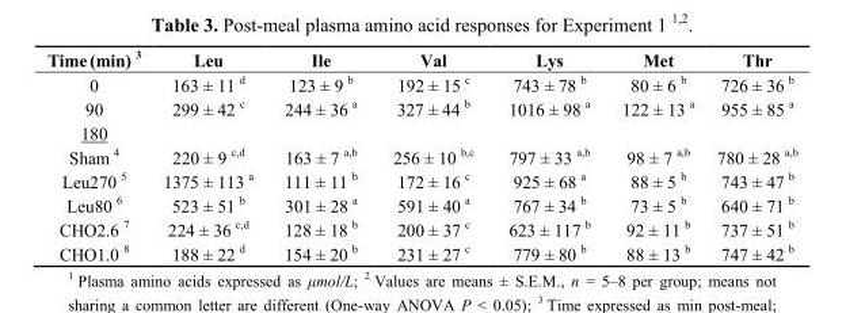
<table><thead><tr><td>Time (min) <sup>3</sup></td><td>Leu</td><td>Ile</td><td>Val</td><td>Lys</td><td>Met</td><td>Thr</td></tr></thead><tbody><tr><td>0</td><td>163 ± 11 <sup>d</sup></td><td>123 ± 9 <sup>b</sup></td><td>192 ± 15 <sup>c</sup></td><td>743 ± 78 <sup>b</sup></td><td>80 ± 6 <sup>b</sup></td><td>726 ± 36 <sup>b</sup></td></tr><tr><td>90</td><td>299 ± 42 <sup>c</sup></td><td>244 ± 36 <sup>a</sup></td><td>327 ± 44 <sup>b</sup></td><td>1016 ± 98 <sup>a</sup></td><td>122 ± 13 <sup>a</sup></td><td>955 ± 85 <sup>a</sup></td></tr><tr><td colspan="7">180</td></tr><tr><td>Sham <sup>4</sup></td><td>220 ± 9 <sup>c,d</sup></td><td>163 ± 7 <sup>a,b</sup></td><td>256 ± 10 <sup>b,c</sup></td><td>797 ± 33 <sup>a,b</sup></td><td>98 ± 7 <sup>a,b</sup></td><td>780 ± 28 <sup>a,b</sup></td></tr><tr><td>Leu270 <sup>5</sup></td><td>1375 ± 113 <sup>a</sup></td><td>111 ± 11 <sup>b</sup></td><td>172 ± 16 <sup>c</sup></td><td>925 ± 68 <sup>a</sup></td><td>88 ± 5 <sup>b</sup></td><td>743 ± 47 <sup>b</sup></td></tr><tr><td>Leu80 <sup>6</sup></td><td>523 ± 51 <sup>b</sup></td><td>301 ± 28 <sup>a</sup></td><td>591 ± 40 <sup>a</sup></td><td>767 ± 34 <sup>b</sup></td><td>73 ± 5 <sup>b</sup></td><td>640 ± 71 <sup>b</sup></td></tr><tr><td>CHO2.6 <sup>7</sup></td><td>224 ± 36 <sup>c,d</sup></td><td>128 ± 18 <sup>b</sup></td><td>200 ± 37 <sup>c</sup></td><td>623 ± 117 <sup>b</sup></td><td>92 ± 11 <sup>b</sup></td><td>737 ± 51 <sup>b</sup></td></tr><tr><td>CHO1.0 <sup>8</sup></td><td>188 ± 22 <sup>d</sup></td><td>154 ± 20 <sup>b</sup></td><td>231 ± 27 <sup>c</sup></td><td>779 ± 80 <sup>b</sup></td><td>88 ± 13 <sup>b</sup></td><td>747 ± 42 <sup>b</sup></td></tr></tbody></table>